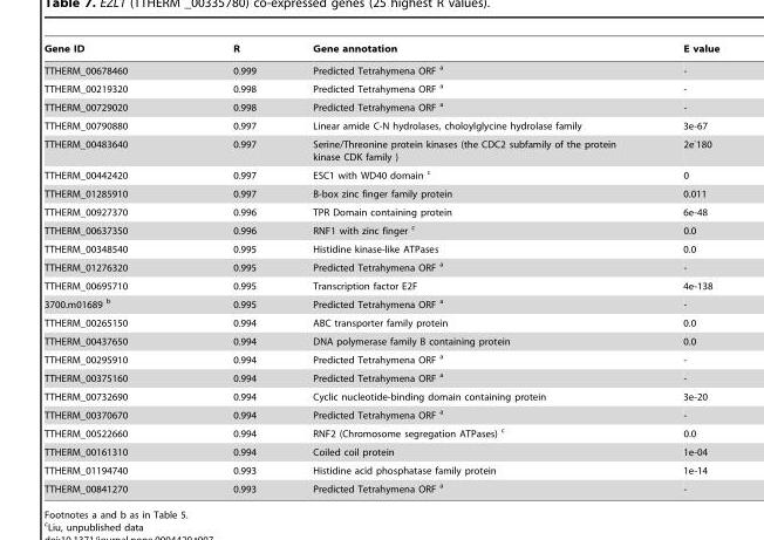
<table><thead><tr><td>Gene ID</td><td>R</td><td>Gene annotation</td><td>E value</td></tr></thead><tbody><tr><td>TTHERM_00678460</td><td>0.999</td><td>Predicted Tetrahymena ORF <sup>a</sup></td><td>-</td></tr><tr><td>TTHERM_00219320</td><td>0.998</td><td>Predicted Tetrahymena ORF <sup>a</sup></td><td>-</td></tr><tr><td>TTHERM_00729020</td><td>0.998</td><td>Predicted Tetrahymena ORF <sup>a</sup></td><td>-</td></tr><tr><td>TTHERM_00790880</td><td>0.997</td><td>Linear amide C-N hydrolases, choloylglycine hydrolase family</td><td>3e-67</td></tr><tr><td>TTHERM_00483640</td><td>0.997</td><td>Serine/Threonine protein kinases (the CDC2 subfamily of the protein kinase CDK family )</td><td>2e<sup>-</sup>180</td></tr><tr><td>TTHERM_00442420</td><td>0.997</td><td>ESC1 with WD40 domain c</td><td>0</td></tr><tr><td>TTHERM_01285910</td><td>0.997</td><td>B-box zinc finger family protein</td><td>0.011</td></tr><tr><td>TTHERM_00927370</td><td>0.996</td><td>TPR Domain containing protein</td><td>6e-48</td></tr><tr><td>TTHERM_00637350</td><td>0.996</td><td>RNF1 with zinc finger c</td><td>0.0</td></tr><tr><td>TTHERM_00348540</td><td>0.995</td><td>Histidine kinase-like ATPases</td><td>0.0</td></tr><tr><td>TTHERM_01276320</td><td>0.995</td><td>Predicted Tetrahymena ORF <sup>a</sup></td><td>-</td></tr><tr><td>TTHERM_00695710</td><td>0.995</td><td>Transcription factor E2F</td><td>4e-138</td></tr><tr><td>3700.m01689 <sup>b</sup></td><td>0.995</td><td>Predicted Tetrahymena ORF <sup>a</sup></td><td>-</td></tr><tr><td>TTHERM_00265150</td><td>0.994</td><td>ABC transporter family protein</td><td>0.0</td></tr><tr><td>TTHERM_00437650</td><td>0.994</td><td>DNA polymerase family B containing protein</td><td>0.0</td></tr><tr><td>TTHERM_00295910</td><td>0.994</td><td>Predicted Tetrahymena ORF <sup>a</sup></td><td>-</td></tr><tr><td>TTHERM_00375160</td><td>0.994</td><td>Predicted Tetrahymena ORF <sup>a</sup></td><td>-</td></tr><tr><td>TTHERM_00732690</td><td>0.994</td><td>Cyclic nucleotide-binding domain containing protein</td><td>3e-20</td></tr><tr><td>TTHERM_00370670</td><td>0.994</td><td>Predicted Tetrahymena ORF <sup>a</sup></td><td>-</td></tr><tr><td>TTHERM_00522660</td><td>0.994</td><td>RNF2 (Chromosome segregation ATPases) c</td><td>0.0</td></tr><tr><td>TTHERM_00161310</td><td>0.994</td><td>Coiled coil protein</td><td>1e-04</td></tr><tr><td>TTHERM_01194740</td><td>0.993</td><td>Histidine acid phosphatase family protein</td><td>1e-14</td></tr><tr><td>TTHERM_00841270</td><td>0.993</td><td>Predicted Tetrahymena ORF <sup>a</sup></td><td>-</td></tr></tbody></table>